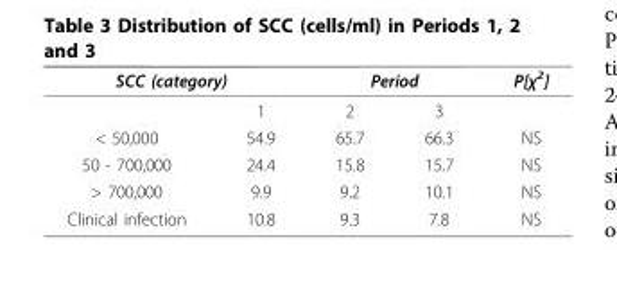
<table><thead><tr><td colspan="2">SCC (category)</td><td colspan="2">Period</td><td rowspan="2">P[χ<sup>2</sup>]</td></tr><tr><td></td><td>1</td><td>2</td><td>3</td></tr></thead><tbody><tr><td>&lt; 50,000</td><td>54.9</td><td>65.7</td><td>66.3</td><td>NS</td></tr><tr><td>50 - 700,000</td><td>24.4</td><td>15.8</td><td>15.7</td><td>NS</td></tr><tr><td>&gt; 700,000</td><td>9.9</td><td>9.2</td><td>10.1</td><td>NS</td></tr><tr><td>Clinical infection</td><td>10.8</td><td>9.3</td><td>7.8</td><td>NS</td></tr></tbody></table>